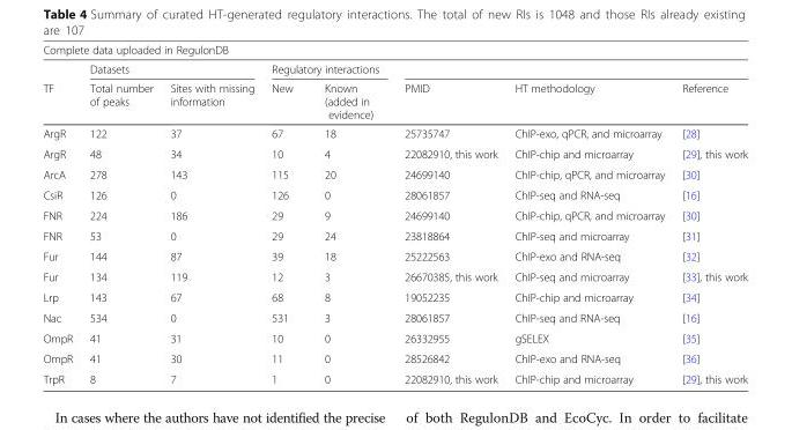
<table><thead><tr><td colspan="8">Complete data uploaded in RegulonDB</td></tr><tr><td rowspan="2">TF</td><td colspan="2">Datasets</td><td colspan="2">Regulatory interactions</td><td rowspan="2">PMID</td><td rowspan="2">HT methodology</td><td rowspan="2">Reference</td></tr><tr><td>Total number of peaks</td><td>Sites with missing information</td><td>New</td><td>Known (added in evidence)</td></tr></thead><tbody><tr><td>ArgR</td><td>122</td><td>37</td><td>67</td><td>18</td><td>25735747</td><td>ChIP-exo, qPCR, and microarray</td><td>[28]</td></tr><tr><td>ArgR</td><td>48</td><td>34</td><td>10</td><td>4</td><td>22082910, this work</td><td>ChIP-chip and microarray</td><td>[29], this work</td></tr><tr><td>ArcA</td><td>278</td><td>143</td><td>115</td><td>20</td><td>24699140</td><td>ChIP-chip, qPCR, and microarray</td><td>[30]</td></tr><tr><td>CsiR</td><td>126</td><td>0</td><td>126</td><td>0</td><td>28061857</td><td>ChIP-seq and RNA-seq</td><td>[16]</td></tr><tr><td>FNR</td><td>224</td><td>186</td><td>29</td><td>9</td><td>24699140</td><td>ChIP-chip, qPCR, and microarray</td><td>[30]</td></tr><tr><td>FNR</td><td>53</td><td>0</td><td>29</td><td>24</td><td>23818864</td><td>ChIP-seq and microarray</td><td>[31]</td></tr><tr><td>Fur</td><td>144</td><td>87</td><td>39</td><td>18</td><td>25222563</td><td>ChIP-exo and RNA-seq</td><td>[32]</td></tr><tr><td>Fur</td><td>134</td><td>119</td><td>12</td><td>3</td><td>26670385, this work</td><td>ChIP-seq and microarray</td><td>[33], this work</td></tr><tr><td>Lrp</td><td>143</td><td>67</td><td>68</td><td>8</td><td>19052235</td><td>ChIP-chip and microarray</td><td>[34]</td></tr><tr><td>Nac</td><td>534</td><td>0</td><td>531</td><td>3</td><td>28061857</td><td>ChIP-seq and RNA-seq</td><td>[16]</td></tr><tr><td>OmpR</td><td>41</td><td>31</td><td>10</td><td>0</td><td>26332955</td><td>gSELEX</td><td>[35]</td></tr><tr><td>OmpR</td><td>41</td><td>30</td><td>11</td><td>0</td><td>28526842</td><td>ChIP-exo and RNA-seq</td><td>[36]</td></tr><tr><td>TrpR</td><td>8</td><td>7</td><td>1</td><td>0</td><td>22082910, this work</td><td>ChIP-chip and microarray</td><td>[29], this work</td></tr></tbody></table>